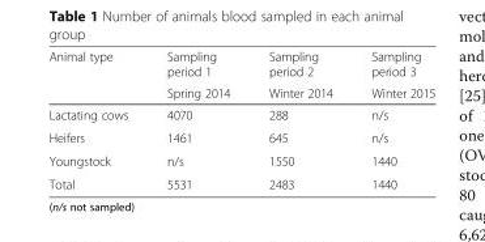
<table><thead><tr><td rowspan="2">Animal type</td><td rowspan="2">Sampling period 1 Spring 2014</td><td rowspan="2">Sampling period 2 Winter 2014</td><td rowspan="2">Sampling period 3 Winter 2015</td></tr><tr></tr></thead><tbody><tr><td>Lactating cows</td><td>4070</td><td>288</td><td>n/s</td></tr><tr><td>Heifers</td><td>1461</td><td>645</td><td>n/s</td></tr><tr><td>Youngstock</td><td>n/s</td><td>1550</td><td>1440</td></tr><tr><td>Total</td><td>5531</td><td>2483</td><td>1440</td></tr></tbody></table>